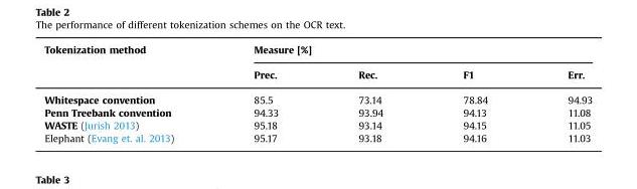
<table><thead><tr><td rowspan="2">Tokenization method</td><td colspan="4">Measure [%]</td></tr><tr><td>Prec.</td><td>Rec.</td><td>F1</td><td>Err.</td></tr></thead><tbody><tr><td>Whitespace convention</td><td>85.5</td><td>73.14</td><td>78.84</td><td>94.93</td></tr><tr><td>Penn Treebank convention</td><td>94.33</td><td>93.94</td><td>94.13</td><td>11.08</td></tr><tr><td>WASTE (Jurish 2013)</td><td>95.18</td><td>93.14</td><td>94.15</td><td>11.05</td></tr><tr><td>Elephant (Evang et. al. 2013)</td><td>95.17</td><td>93.18</td><td>94.16</td><td>11.03</td></tr></tbody></table>